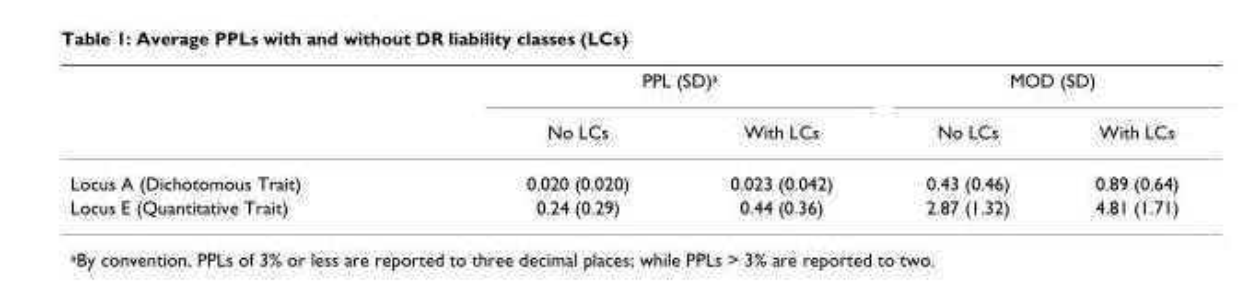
<table><thead><tr><td rowspan="2"></td><td colspan="2">PPL (SD)<sup>a</sup></td><td colspan="2">MOD (SD)</td></tr><tr><td>No LCs</td><td>With LCs</td><td>No LCs</td><td>With LCs</td></tr></thead><tbody><tr><td>Locus A (Dichotomous Trait)</td><td>0.020 (0.020)</td><td>0.023 (0.042)</td><td>0.43 (0.46)</td><td>0.89 (0.64)</td></tr><tr><td>Locus E (Quantitative Trait)</td><td>0.24 (0.29)</td><td>0.44 (0.36)</td><td>2.87 (1.32)</td><td>4.81 (1.71)</td></tr></tbody></table>